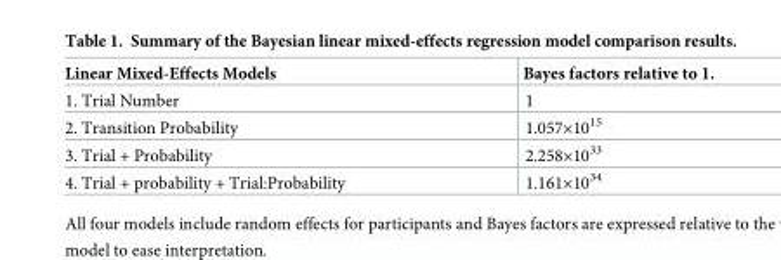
<table><thead><tr><td>Linear Mixed-Effects Models</td><td>Bayes factors relative to 1.</td></tr></thead><tbody><tr><td>1. Trial Number</td><td>1</td></tr><tr><td>2. Transition Probability</td><td>1.057×10<sup>15</sup></td></tr><tr><td>3. Trial + Probability</td><td>2.258×10<sup>33</sup></td></tr><tr><td>4. Trial + probability + Trial:Probability</td><td>1.161×10<sup>34</sup></td></tr></tbody></table>